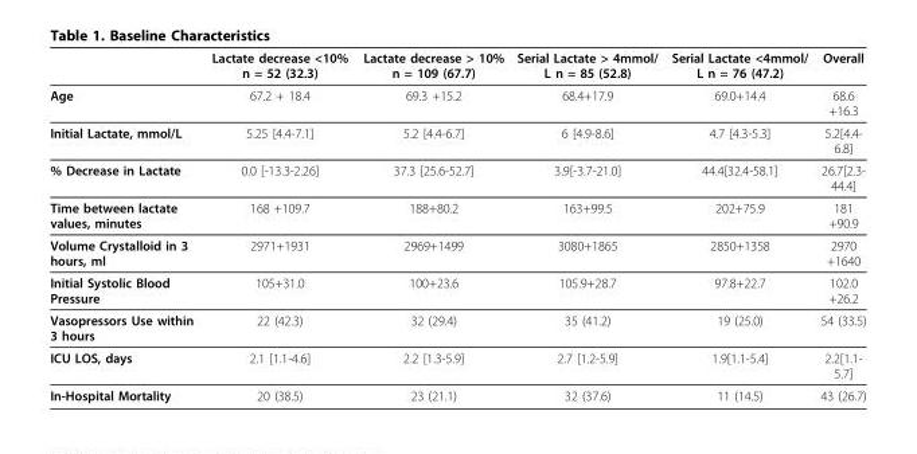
<table><thead><tr><td></td><td>Lactate decrease &lt;10% n = 52 (32.3)</td><td>Lactate decrease &gt; 10% n = 109 (67.7)</td><td>Serial Lactate &gt; 4mmol/ L n = 85 (52.8)</td><td>Serial Lactate &lt;4mmol/ L n = 76 (47.2)</td><td>Overall</td></tr></thead><tbody><tr><td>Age</td><td>67.2 + 18.4</td><td>69.3 +15.2</td><td>68.4+17.9</td><td>69.0+14.4</td><td>68.6 +16.3</td></tr><tr><td>Initial Lactate, mmol/L</td><td>5.25 [4.4-7.1]</td><td>5.2 [4.4-6.7]</td><td>6 [4.9-8.6]</td><td>4.7 [4.3-5.3]</td><td>5.2[4.4- 6.8]</td></tr><tr><td>% Decrease in Lactate</td><td>0.0 [-13.3-2.26]</td><td>37.3 [25.6-52.7]</td><td>3.9[-3.7-21.0]</td><td>44.4[32.4-58.1]</td><td>26.7[2.3- 44.4]</td></tr><tr><td>Time between lactate values, minutes</td><td>168 +109.7</td><td>188+80.2</td><td>163+99.5</td><td>202+75.9</td><td>181 +90.9</td></tr><tr><td>Volume Crystalloid in 3 hours, ml</td><td>2971+1931</td><td>2969+1499</td><td>3080+1865</td><td>2850+1358</td><td>2970 +1640</td></tr><tr><td>Initial Systolic Blood Pressure</td><td>105+31.0</td><td>100+23.6</td><td>105.9+28.7</td><td>97.8+22.7</td><td>102.0 +26.2</td></tr><tr><td>Vasopressors Use within 3 hours</td><td>22 (42.3)</td><td>32 (29.4)</td><td>35 (41.2)</td><td>19 (25.0)</td><td>54 (33.5)</td></tr><tr><td>ICU LOS, days</td><td>2.1 [1.1-4.6]</td><td>2.2 [1.3-5.9]</td><td>2.7 [1.2-5.9]</td><td>1.9[1.1-5.4]</td><td>2.2[1.1- 5.7]</td></tr><tr><td>In-Hospital Mortality</td><td>20 (38.5)</td><td>23 (21.1)</td><td>32 (37.6)</td><td>11 (14.5)</td><td>43 (26.7)</td></tr></tbody></table>